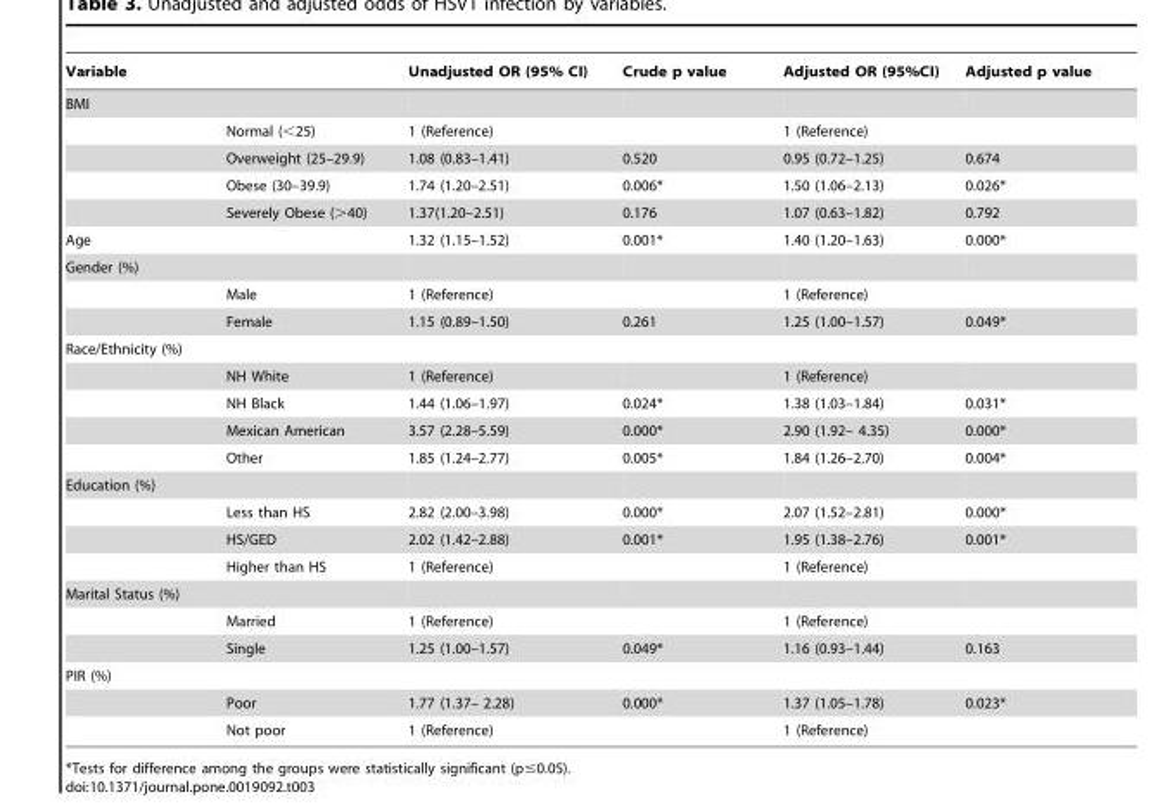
<table><thead><tr><td>Variable</td><td></td><td>Unadjusted OR (95% CI)</td><td>Crude p value</td><td>Adjusted OR (95%CI)</td><td>Adjusted p value</td></tr></thead><tbody><tr><td colspan="6">BMI</td></tr><tr><td></td><td>Normal (&lt;25)</td><td>1 (Reference)</td><td></td><td>1 (Reference)</td><td></td></tr><tr><td></td><td>Overweight (25–29.9)</td><td>1.08 (0.83–1.41)</td><td>0.520</td><td>0.95 (0.72–1.25)</td><td>0.674</td></tr><tr><td></td><td>Obese (30–39.9)</td><td>1.74 (1.20–2.51)</td><td>0.006*</td><td>1.50 (1.06–2.13)</td><td>0.026*</td></tr><tr><td></td><td>Severely Obese (&gt;40)</td><td>1.37(1.20–2.51)</td><td>0.176</td><td>1.07 (0.63–1.82)</td><td>0.792</td></tr><tr><td>Age</td><td></td><td>1.32 (1.15–1.52)</td><td>0.001*</td><td>1.40 (1.20–1.63)</td><td>0.000*</td></tr><tr><td colspan="6">Gender (%)</td></tr><tr><td></td><td>Male</td><td>1 (Reference)</td><td></td><td>1 (Reference)</td><td></td></tr><tr><td></td><td>Female</td><td>1.15 (0.89–1.50)</td><td>0.261</td><td>1.25 (1.00–1.57)</td><td>0.049*</td></tr><tr><td colspan="6">Race/Ethnicity (%)</td></tr><tr><td></td><td>NH White</td><td>1 (Reference)</td><td></td><td>1 (Reference)</td><td></td></tr><tr><td></td><td>NH Black</td><td>1.44 (1.06–1.97)</td><td>0.024*</td><td>1.38 (1.03–1.84)</td><td>0.031*</td></tr><tr><td></td><td>Mexican American</td><td>3.57 (2.28–5.59)</td><td>0.000*</td><td>2.90 (1.92– 4.35)</td><td>0.000*</td></tr><tr><td></td><td>Other</td><td>1.85 (1.24–2.77)</td><td>0.005*</td><td>1.84 (1.26–2.70)</td><td>0.004*</td></tr><tr><td colspan="6">Education (%)</td></tr><tr><td></td><td>Less than HS</td><td>2.82 (2.00–3.98)</td><td>0.000*</td><td>2.07 (1.52–2.81)</td><td>0.000*</td></tr><tr><td></td><td>HS/GED</td><td>2.02 (1.42–2.88)</td><td>0.001*</td><td>1.95 (1.38–2.76)</td><td>0.001*</td></tr><tr><td></td><td>Higher than HS</td><td>1 (Reference)</td><td></td><td>1 (Reference)</td><td></td></tr><tr><td colspan="6">Marital Status (%)</td></tr><tr><td></td><td>Married</td><td>1 (Reference)</td><td></td><td>1 (Reference)</td><td></td></tr><tr><td></td><td>Single</td><td>1.25 (1.00–1.57)</td><td>0.049*</td><td>1.16 (0.93–1.44)</td><td>0.163</td></tr><tr><td colspan="6">PIR (%)</td></tr><tr><td></td><td>Poor</td><td>1.77 (1.37– 2.28)</td><td>0.000*</td><td>1.37 (1.05–1.78)</td><td>0.023*</td></tr><tr><td></td><td>Not poor</td><td>1 (Reference)</td><td></td><td>1 (Reference)</td><td></td></tr></tbody></table>